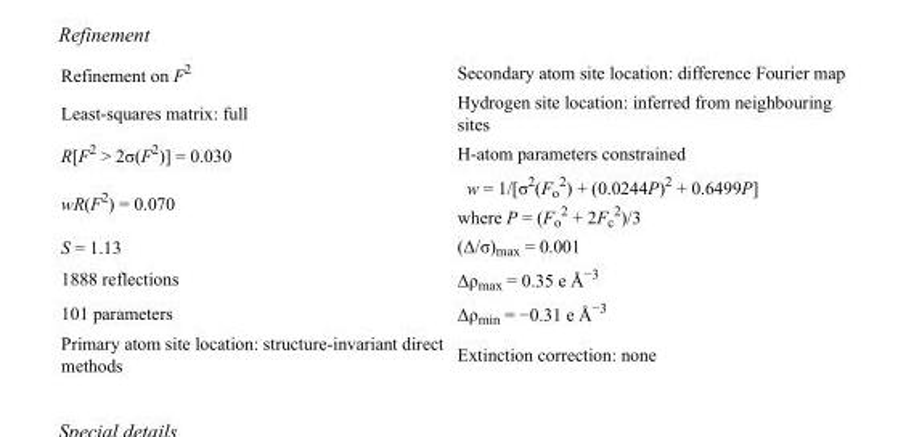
<table><tbody><tr><td>Refinement on F<sup>2</sup></td><td>Secondary atom site location: difference Fourier map</td></tr><tr><td>Least-squares matrix: full</td><td>Hydrogen site location: inferred from neighbouring sites</td></tr><tr><td>R[F<sup>2</sup> &gt; 2σ(F<sup>2</sup>)] = 0.030</td><td>H-atom parameters constrained</td></tr><tr><td>wR(F<sup>2</sup>) = 0.070</td><td>w = 1/[σ<sup>2</sup>(F<sub>o</sub> <sup>2</sup>) + (0.0244P)<sup>2</sup> + 0.6499P] where P = (F<sub>o</sub> <sup>2</sup> + 2F<sub>c</sub> <sup>2</sup>)/3</td></tr><tr><td>S = 1.13</td><td>(Δ/σ)<sub>max</sub> = 0.001</td></tr><tr><td>1888 reflections</td><td>Δρ<sub>max</sub> = 0.35 e Å<sup>−3</sup></td></tr><tr><td>101 parameters</td><td>Δρ<sub>min</sub> = −0.31 e Å<sup>−3</sup></td></tr><tr><td>Primary atom site location: structure-invariant direct methods</td><td>Extinction correction: none</td></tr></tbody></table>